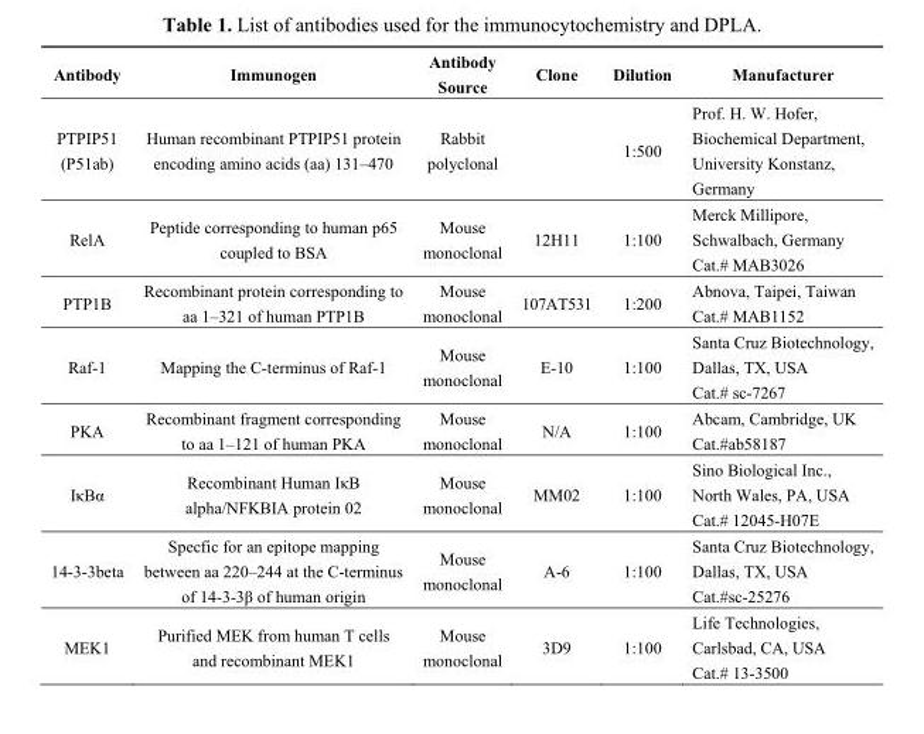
<table><thead><tr><td>Antibody</td><td>Immunogen</td><td>Antibody Source</td><td>Clone</td><td>Dilution</td><td>Manufacturer</td></tr></thead><tbody><tr><td>PTPIP51 (P51ab)</td><td>Human recombinant PTPIP51 protein encoding amino acids (aa) 131–470</td><td>Rabbit polyclonal</td><td></td><td>1:500</td><td>Prof. H. W. Hofer, Biochemical Department, University Konstanz, Germany</td></tr><tr><td>RelA</td><td>Peptide corresponding to human p65 coupled to BSA</td><td>Mouse monoclonal</td><td>12H11</td><td>1:100</td><td>Merck Millipore, Schwalbach, Germany Cat.# MAB3026</td></tr><tr><td>PTP1B</td><td>Recombinant protein corresponding to aa 1–321 of human PTP1B</td><td>Mouse monoclonal</td><td>107AT531</td><td>1:200</td><td>Abnova, Taipei, Taiwan Cat.# MAB1152</td></tr><tr><td>Raf-1</td><td>Mapping the C-terminus of Raf-1</td><td>Mouse monoclonal</td><td>E-10</td><td>1:100</td><td>Santa Cruz Biotechnology, Dallas, TX, USA Cat.# sc-7267</td></tr><tr><td>PKA</td><td>Recombinant fragment corresponding to aa 1–121 of human PKA</td><td>Mouse monoclonal</td><td>N/A</td><td>1:100</td><td>Abcam, Cambridge, UK Cat.#ab58187</td></tr><tr><td>IκBα</td><td>Recombinant Human IκB alpha/NFKBIA protein 02</td><td>Mouse monoclonal</td><td>MM02</td><td>1:100</td><td>Sino Biological Inc., North Wales, PA, USA Cat.# 12045-H07E</td></tr><tr><td>14-3-3beta</td><td>Specfic for an epitope mapping between aa 220–244 at the C-terminus of 14-3-3β of human origin</td><td>Mouse monoclonal</td><td>A-6</td><td>1:100</td><td>Santa Cruz Biotechnology, Dallas, TX, USA Cat.#sc-25276</td></tr><tr><td>MEK1</td><td>Purified MEK from human T cells and recombinant MEK1</td><td>Mouse monoclonal</td><td>3D9</td><td>1:100</td><td>Life Technologies, Carlsbad, CA, USA Cat.# 13-3500</td></tr></tbody></table>